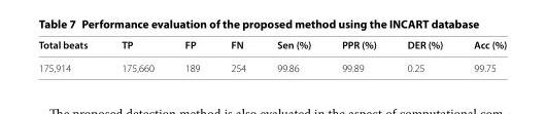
<table><thead><tr><td>Total beats</td><td>TP</td><td>FP</td><td>FN</td><td>Sen (%)</td><td>PPR (%)</td><td>DER (%)</td><td>Acc (%)</td></tr></thead><tbody><tr><td>175,914</td><td>175,660</td><td>189</td><td>254</td><td>99.86</td><td>99.89</td><td>0.25</td><td>99.75</td></tr></tbody></table>